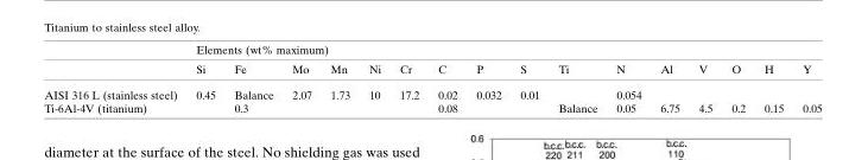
<table><thead><tr><td rowspan="2"></td><td colspan="16">Elements (wt% maximum)</td></tr><tr><td>Si</td><td>Fe</td><td>Mo</td><td>Mn</td><td>Ni</td><td>Cr</td><td>C</td><td>P</td><td>S</td><td>Ti</td><td>N</td><td>Al</td><td>V</td><td>O</td><td>H</td><td>Y</td></tr></thead><tbody><tr><td>AISI 316 L (stainless steel)</td><td>0.45</td><td>Balance</td><td>2.07</td><td>1.73</td><td>10</td><td>17.2</td><td>0.02</td><td>0.032</td><td>0.01</td><td></td><td>0.054</td><td></td><td></td><td></td><td></td><td></td></tr><tr><td>Ti-6Al-4V (titanium)</td><td></td><td>0.3</td><td></td><td></td><td></td><td></td><td>0.08</td><td></td><td></td><td>Balance</td><td>0.05</td><td>6.75</td><td>4.5</td><td>0.2</td><td>0.15</td><td>0.05</td></tr></tbody></table>